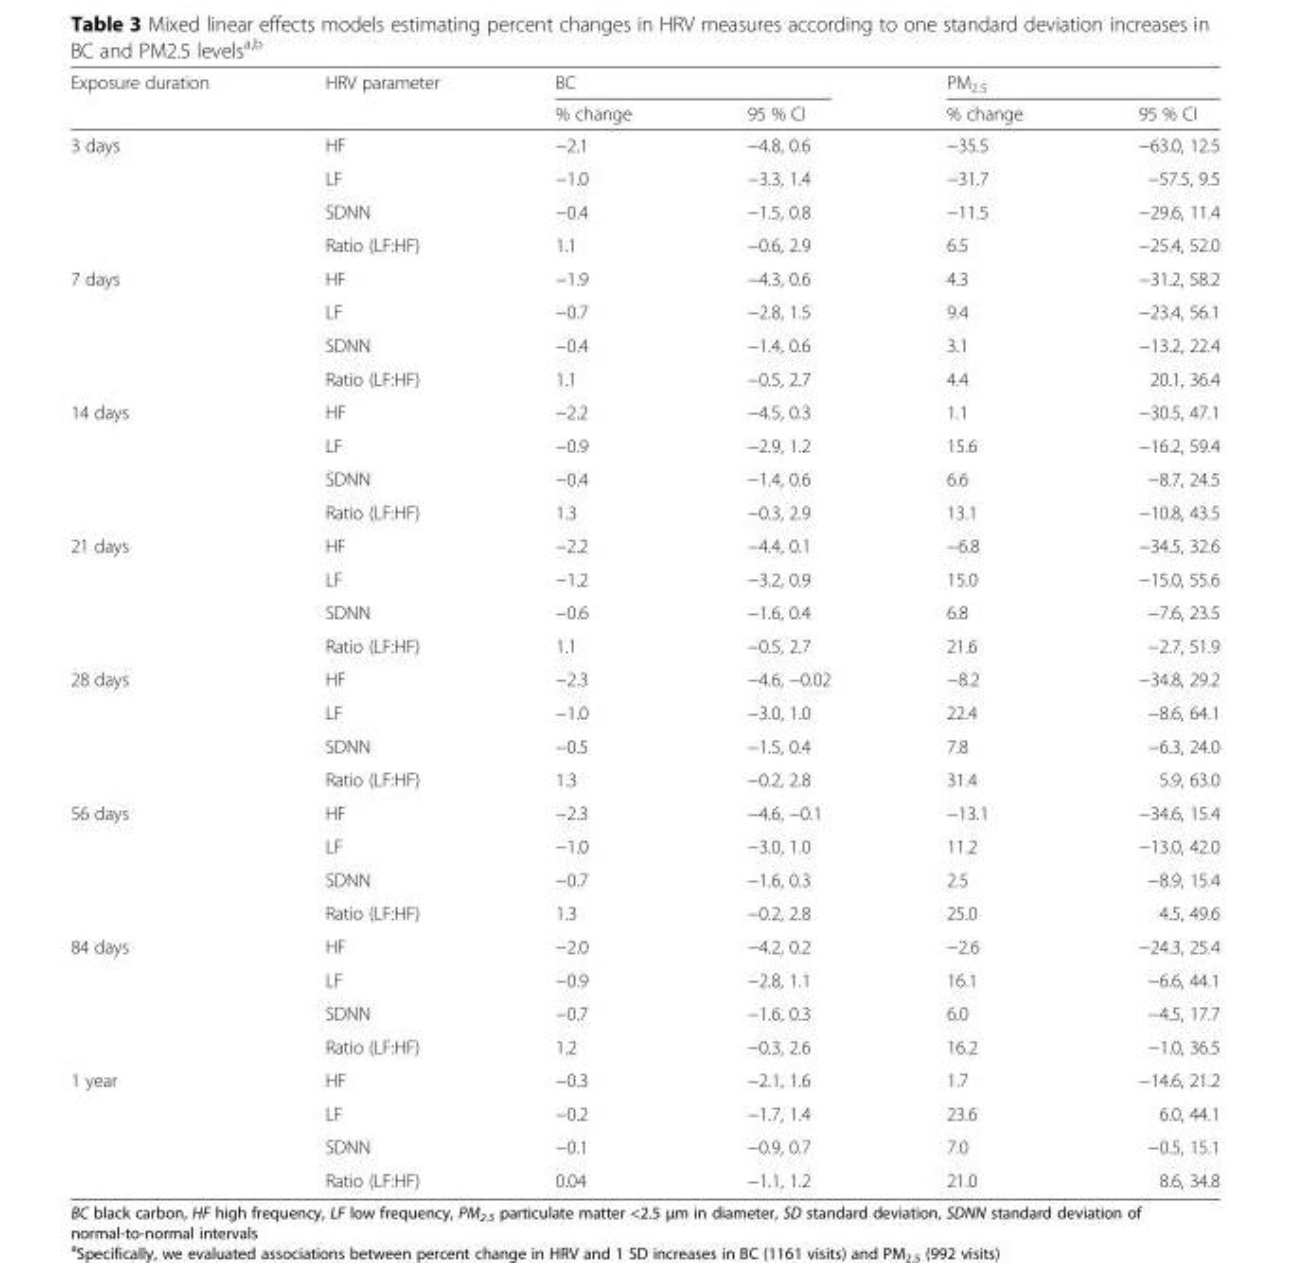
<table><thead><tr><td rowspan="2">Exposure duration</td><td rowspan="2">HRV parameter</td><td colspan="2">BC</td><td colspan="2">PM<sub>2.5</sub></td></tr><tr><td>% change</td><td>95 % CI</td><td>% change</td><td>95 % CI</td></tr></thead><tbody><tr><td rowspan="4">3 days</td><td>HF</td><td>−2.1</td><td>−4.8, 0.6</td><td>−35.5</td><td>−63.0, 12.5</td></tr><tr><td>LF</td><td>−1.0</td><td>−3.3, 1.4</td><td>−31.7</td><td>−57.5, 9.5</td></tr><tr><td>SDNN</td><td>−0.4</td><td>−1.5, 0.8</td><td>−11.5</td><td>−29.6, 11.4</td></tr><tr><td>Ratio (LF:HF)</td><td>1.1</td><td>−0.6, 2.9</td><td>6.5</td><td>−25.4, 52.0</td></tr><tr><td rowspan="4">7 days</td><td>HF</td><td>−1.9</td><td>−4.3, 0.6</td><td>4.3</td><td>−31.2, 58.2</td></tr><tr><td>LF</td><td>−0.7</td><td>−2.8, 1.5</td><td>9.4</td><td>−23.4, 56.1</td></tr><tr><td>SDNN</td><td>−0.4</td><td>−1.4, 0.6</td><td>3.1</td><td>−13.2, 22.4</td></tr><tr><td>Ratio (LF:HF)</td><td>1.1</td><td>−0.5, 2.7</td><td>4.4</td><td>20.1, 36.4</td></tr><tr><td rowspan="4">14 days</td><td>HF</td><td>−2.2</td><td>−4.5, 0.3</td><td>1.1</td><td>−30.5, 47.1</td></tr><tr><td>LF</td><td>−0.9</td><td>−2.9, 1.2</td><td>15.6</td><td>−16.2, 59.4</td></tr><tr><td>SDNN</td><td>−0.4</td><td>−1.4, 0.6</td><td>6.6</td><td>−8.7, 24.5</td></tr><tr><td>Ratio (LF:HF)</td><td>1.3</td><td>−0.3, 2.9</td><td>13.1</td><td>−10.8, 43.5</td></tr><tr><td rowspan="4">21 days</td><td>HF</td><td>−2.2</td><td>−4.4, 0.1</td><td>−6.8</td><td>−34.5, 32.6</td></tr><tr><td>LF</td><td>−1.2</td><td>−3.2, 0.9</td><td>15.0</td><td>−15.0, 55.6</td></tr><tr><td>SDNN</td><td>−0.6</td><td>−1.6, 0.4</td><td>6.8</td><td>−7.6, 23.5</td></tr><tr><td>Ratio (LF:HF)</td><td>1.1</td><td>−0.5, 2.7</td><td>21.6</td><td>−2.7, 51.9</td></tr><tr><td rowspan="4">28 days</td><td>HF</td><td>−2.3</td><td>−4.6, −0.02</td><td>−8.2</td><td>−34.8, 29.2</td></tr><tr><td>LF</td><td>−1.0</td><td>−3.0, 1.0</td><td>22.4</td><td>−8.6, 64.1</td></tr><tr><td>SDNN</td><td>−0.5</td><td>−1.5, 0.4</td><td>7.8</td><td>−6.3, 24.0</td></tr><tr><td>Ratio (LF:HF)</td><td>1.3</td><td>−0.2, 2.8</td><td>31.4</td><td>5.9, 63.0</td></tr><tr><td rowspan="4">56 days</td><td>HF</td><td>−2.3</td><td>−4.6, −0.1</td><td>−13.1</td><td>−34.6, 15.4</td></tr><tr><td>LF</td><td>−1.0</td><td>−3.0, 1.0</td><td>11.2</td><td>−13.0, 42.0</td></tr><tr><td>SDNN</td><td>−0.7</td><td>−1.6, 0.3</td><td>2.5</td><td>−8.9, 15.4</td></tr><tr><td>Ratio (LF:HF)</td><td>1.3</td><td>−0.2, 2.8</td><td>25.0</td><td>4.5, 49.6</td></tr><tr><td rowspan="4">84 days</td><td>HF</td><td>−2.0</td><td>−4.2, 0.2</td><td>−2.6</td><td>−24.3, 25.4</td></tr><tr><td>LF</td><td>−0.9</td><td>−2.8, 1.1</td><td>16.1</td><td>−6.6, 44.1</td></tr><tr><td>SDNN</td><td>−0.7</td><td>−1.6, 0.3</td><td>6.0</td><td>−4.5, 17.7</td></tr><tr><td>Ratio (LF:HF)</td><td>1.2</td><td>−0.3, 2.6</td><td>16.2</td><td>−1.0, 36.5</td></tr><tr><td rowspan="4">1 year</td><td>HF</td><td>−0.3</td><td>−2.1, 1.6</td><td>1.7</td><td>−14.6, 21.2</td></tr><tr><td>LF</td><td>−0.2</td><td>−1.7, 1.4</td><td>23.6</td><td>6.0, 44.1</td></tr><tr><td>SDNN</td><td>−0.1</td><td>−0.9, 0.7</td><td>7.0</td><td>−0.5, 15.1</td></tr><tr><td>Ratio (LF:HF)</td><td>0.04</td><td>−1.1, 1.2</td><td>21.0</td><td>8.6, 34.8</td></tr></tbody></table>